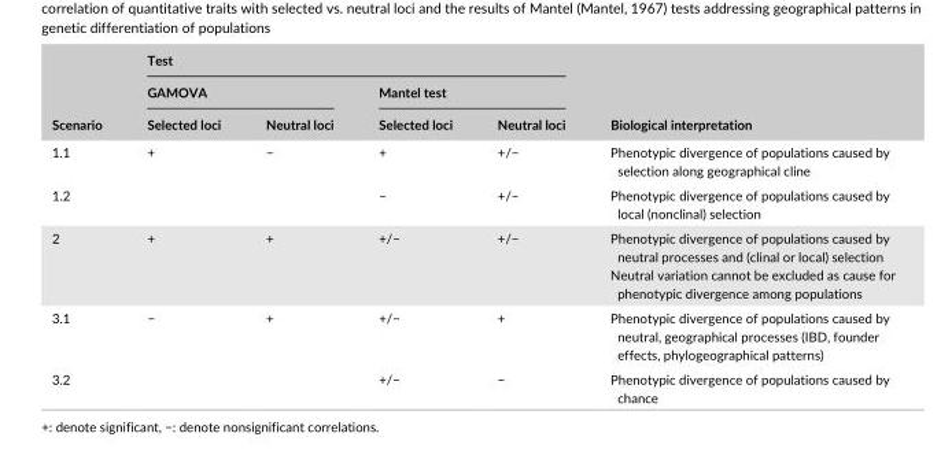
<table><thead><tr><td rowspan="3">Scenario</td><td colspan="4">Test</td><td rowspan="3">Biological interpretation</td></tr><tr><td colspan="2">GAMOVA</td><td colspan="2">Mantel test</td></tr><tr><td>Selected loci</td><td>Neutral loci</td><td>Selected loci</td><td>Neutral loci</td></tr></thead><tbody><tr><td>1.1</td><td rowspan="2">+</td><td rowspan="2">−</td><td>+</td><td>+/−</td><td>Phenotypic divergence of populations caused by selection along geographical cline</td></tr><tr><td>1.2</td><td>−</td><td>+/−</td><td>Phenotypic divergence of populations caused by local (nonclinal) selection</td></tr><tr><td>2</td><td>+</td><td>+</td><td>+/−</td><td>+/−</td><td>Phenotypic divergence of populations caused by neutral processes and (clinal or local) selection Neutral variation cannot be excluded as cause for phenotypic divergence among populations</td></tr><tr><td>3.1</td><td rowspan="2">−</td><td rowspan="2">+</td><td>+/−</td><td>+</td><td>Phenotypic divergence of populations caused by neutral, geographical processes (IBD, founder effects, phylogeographical patterns)</td></tr><tr><td>3.2</td><td>+/−</td><td>−</td><td>Phenotypic divergence of populations caused by chance</td></tr></tbody></table>